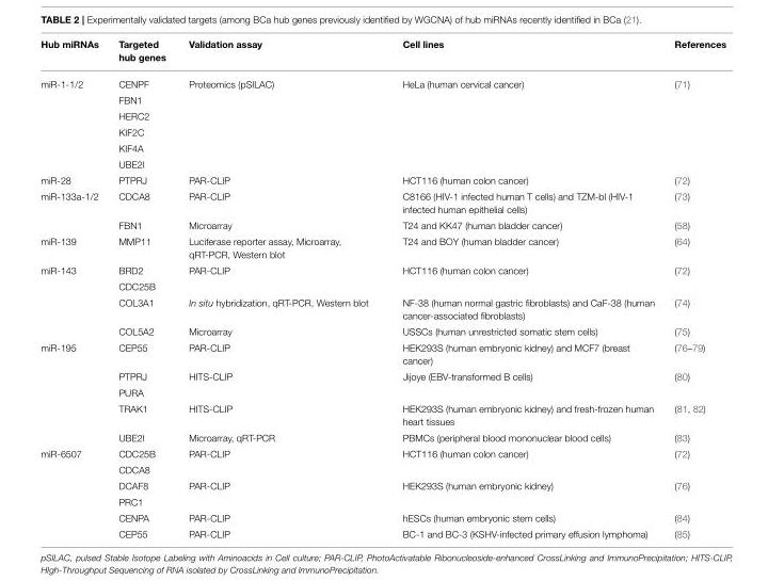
<table><thead><tr><td>Hub miRNAs</td><td>Targeted hub genes</td><td>Validation assay</td><td>Cell lines</td><td>References</td></tr></thead><tbody><tr><td rowspan="6">miR-1-1/2</td><td>CENPF</td><td>Proteomics (pSILAC)</td><td>HeLa (human cervical cancer)</td><td>(71)</td></tr><tr><td>FBN1</td><td></td><td></td><td></td></tr><tr><td>HERC2</td><td></td><td></td><td></td></tr><tr><td>KIF2C</td><td></td><td></td><td></td></tr><tr><td>KIF4A</td><td></td><td></td><td></td></tr><tr><td>UBE2I</td><td></td><td></td><td></td></tr><tr><td>miR-28</td><td>PTPRJ</td><td>PAR-CLIP</td><td>HCT116 (human colon cancer)</td><td>(72)</td></tr><tr><td rowspan="2">miR-133a-1/2</td><td>CDCA8</td><td>PAR-CLIP</td><td>C8166 (HIV-1 infected human T cells) and TZM-bl (HIV-1 infected human epithelial cells)</td><td>(73)</td></tr><tr><td>FBN1</td><td>Microarray</td><td>T24 and KK47 (human bladder cancer)</td><td>(58)</td></tr><tr><td>miR-139</td><td>MMP11</td><td>Luciferase reporter assay, Microarray, qRT-PCR, Western blot</td><td>T24 and BOY (human bladder cancer)</td><td>(64)</td></tr><tr><td rowspan="4">miR-143</td><td>BRD2</td><td>PAR-CLIP</td><td>HCT116 (human colon cancer)</td><td>(72)</td></tr><tr><td>CDC25B</td><td></td><td></td><td></td></tr><tr><td>COL3A1</td><td>In situ hybridization, qRT-PCR, Western blot</td><td>NF-38 (human normal gastric fibroblasts) and CaF-38 (human cancer-associated fibroblasts)</td><td>(74)</td></tr><tr><td>COL5A2</td><td>Microarray</td><td>USSCs (human unrestricted somatic stem cells)</td><td>(75)</td></tr><tr><td rowspan="5">miR-195</td><td>CEP55</td><td>PAR-CLIP</td><td>HEK293S (human embryonic kidney) and MCF7 (breast cancer)</td><td>(76–79)</td></tr><tr><td>PTPRJ</td><td>HITS-CLIP</td><td>Jijoye (EBV-transformed B cells)</td><td>(80)</td></tr><tr><td>PURA</td><td></td><td></td><td></td></tr><tr><td>TRAK1</td><td>HITS-CLIP</td><td>HEK293S (human embryonic kidney) and fresh-frozen human heart tissues</td><td>(81, 82)</td></tr><tr><td>UBE2I</td><td>Microarray, qRT-PCR</td><td>PBMCs (peripheral blood mononuclear blood cells)</td><td>(83)</td></tr><tr><td rowspan="6">miR-6507</td><td>CDC25B</td><td>PAR-CLIP</td><td>HCT116 (human colon cancer)</td><td>(72)</td></tr><tr><td>CDCA8</td><td></td><td></td><td></td></tr><tr><td>DCAF8</td><td>PAR-CLIP</td><td>HEK293S (human embryonic kidney)</td><td>(76)</td></tr><tr><td>PRC1</td><td></td><td></td><td></td></tr><tr><td>CENPA</td><td>PAR-CLIP</td><td>hESCs (human embryonic stem cells)</td><td>(84)</td></tr><tr><td>CEP55</td><td>PAR-CLIP</td><td>BC-1 and BC-3 (KSHV-infected primary effusion lymphoma)</td><td>(85)</td></tr></tbody></table>